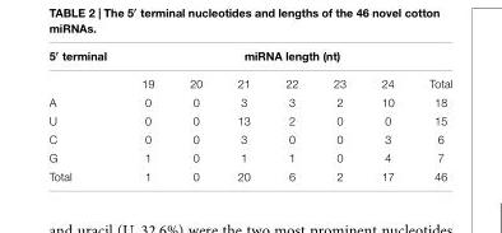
<table><thead><tr><td rowspan="2">5′ terminal</td><td colspan="7">miRNA length (nt)</td></tr><tr><td>19</td><td>20</td><td>21</td><td>22</td><td>23</td><td>24</td><td>Total</td></tr></thead><tbody><tr><td>A</td><td>0</td><td>0</td><td>3</td><td>3</td><td>2</td><td>10</td><td>18</td></tr><tr><td>U</td><td>0</td><td>0</td><td>13</td><td>2</td><td>0</td><td>0</td><td>15</td></tr><tr><td>C</td><td>0</td><td>0</td><td>3</td><td>0</td><td>0</td><td>3</td><td>6</td></tr><tr><td>G</td><td>1</td><td>0</td><td>1</td><td>1</td><td>0</td><td>4</td><td>7</td></tr><tr><td>Total</td><td>1</td><td>0</td><td>20</td><td>6</td><td>2</td><td>17</td><td>46</td></tr></tbody></table>